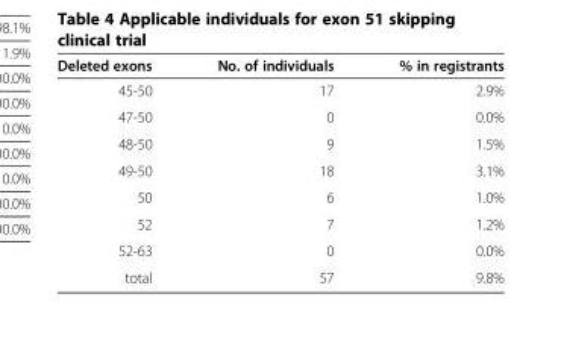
<table><thead><tr><td>Deleted exons</td><td>No. of individuals</td><td>% in registrants</td></tr></thead><tbody><tr><td>45-50</td><td>17</td><td>2.9%</td></tr><tr><td>47-50</td><td>0</td><td>0.0%</td></tr><tr><td>48-50</td><td>9</td><td>1.5%</td></tr><tr><td>49-50</td><td>18</td><td>3.1%</td></tr><tr><td>50</td><td>6</td><td>1.0%</td></tr><tr><td>52</td><td>7</td><td>1.2%</td></tr><tr><td>52-63</td><td>0</td><td>0.0%</td></tr><tr><td>total</td><td>57</td><td>9.8%</td></tr></tbody></table>